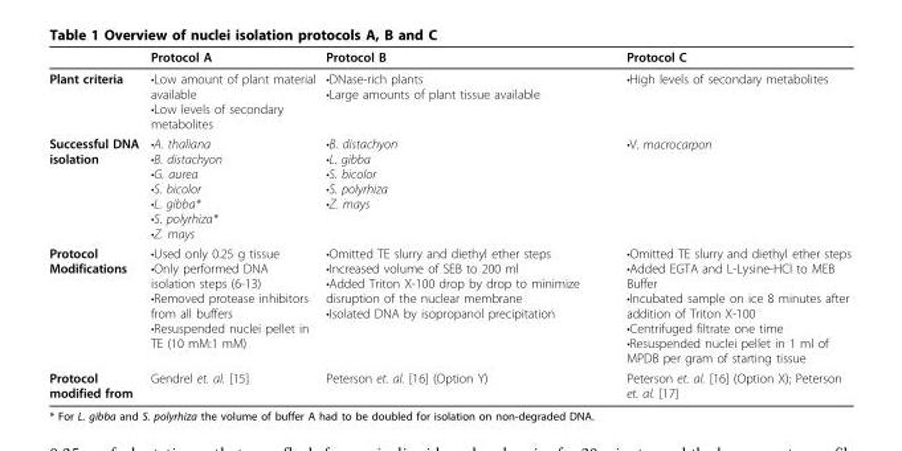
<table><thead><tr><td></td><td>Protocol A</td><td>Protocol B</td><td>Protocol C</td></tr></thead><tbody><tr><td>Plant criteria</td><td>•Low amount of plant material available •Low levels of secondary metabolites</td><td>•DNase-rich plants •Large amounts of plant tissue available</td><td>•High levels of secondary metabolites</td></tr><tr><td>Successful DNA isolation</td><td>•A. thaliana •B. distachyon •G. aurea •S. bicolor •L. gibba* •S. polyrhiza* •Z. mays</td><td>•B. distachyon •L. gibba •S. bicolor •S. polyrhiza •Z. mays</td><td>•V. macrocarpon</td></tr><tr><td>Protocol Modifications</td><td>•Used only 0.25 g tissue •Only performed DNA isolation steps (6-13) •Removed protease inhibitors from all buffers •Resuspended nuclei pellet in TE (10 mM:1 mM)</td><td>•Omitted TE slurry and diethyl ether steps •Increased volume of SEB to 200 ml •Added Triton X-100 drop by drop to minimize disruption of the nuclear membrane •Isolated DNA by isopropanol precipitation</td><td>•Omitted TE slurry and diethyl ether steps •Added EGTA and L-Lysine-HCl to MEB Buffer •Incubated sample on ice 8 minutes after addition of Triton X-100 •Centrifuged filtrate one time •Resuspended nuclei pellet in 1 ml of MPDB per gram of starting tissue</td></tr><tr><td>Protocol modified from</td><td>Gendrel et. al. [15]</td><td>Peterson et. al. [16] (Option Y)</td><td>Peterson et. al. [16] (Option X); Peterson et. al. [17]</td></tr></tbody></table>